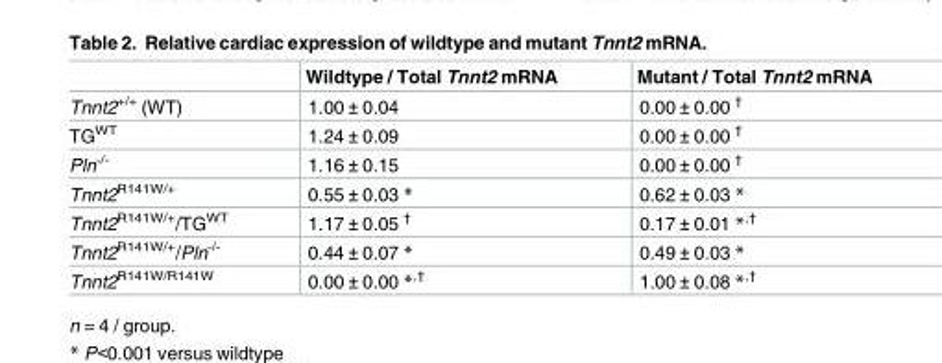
<table><thead><tr><td></td><td>Wildtype / Total Tnnt2 mRNA</td><td>Mutant / Total Tnnt2 mRNA</td></tr></thead><tbody><tr><td>Tnnt2<sup>+/+</sup> (WT)</td><td>1.00 ± 0.04</td><td>0.00 ± 0.00 <sup>†</sup></td></tr><tr><td>TG<sup>WT</sup></td><td>1.24 ± 0.09</td><td>0.00 ± 0.00 <sup>†</sup></td></tr><tr><td>Pln<sup>-/-</sup></td><td>1.16 ± 0.15</td><td>0.00 ± 0.00 <sup>†</sup></td></tr><tr><td>Tnnt2<sup>R141W/+</sup></td><td>0.55 ± 0.03 *</td><td>0.62 ± 0.03 *</td></tr><tr><td>Tnnt2<sup>R141W/+</sup>/TG<sup>WT</sup></td><td>1.17 ± 0.05 <sup>†</sup></td><td>0.17 ± 0.01 *<sup>,†</sup></td></tr><tr><td>Tnnt2<sup>R141W/+</sup>/Pln<sup>-/-</sup></td><td>0.44 ± 0.07 *</td><td>0.49 ± 0.03 *</td></tr><tr><td>Tnnt2<sup>R141W/R141W</sup></td><td>0.00 ± 0.00 *<sup>,†</sup></td><td>1.00 ± 0.08 *<sup>,†</sup></td></tr></tbody></table>